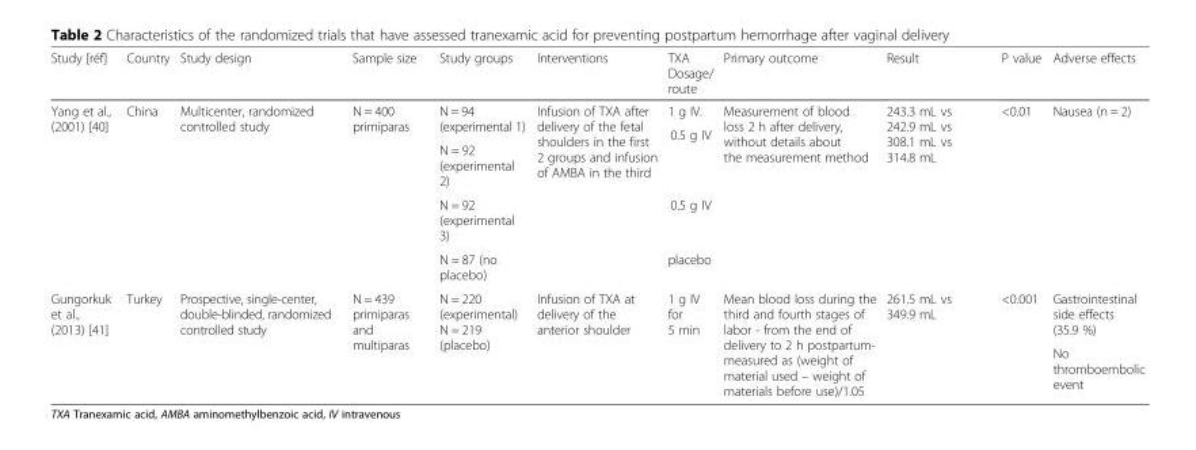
<table><thead><tr><td>Study [réf]</td><td>Country</td><td>Study design</td><td>Sample size</td><td>Study groups</td><td>Interventions</td><td>TXA Dosage/ route</td><td>Primary outcome</td><td>Result</td><td>P value</td><td>Adverse effects</td></tr></thead><tbody><tr><td rowspan="5">Yang et al., (2001) [40]</td><td rowspan="5">China</td><td rowspan="5">Multicenter, randomized controlled study</td><td rowspan="5">N = 400 primiparas</td><td rowspan="2">N = 94 (experimental 1)</td><td rowspan="5">Infusion of TXA after delivery of the fetal shoulders in the first 2 groups and infusion of AMBA in the third</td><td>1 g IV.</td><td rowspan="5">Measurement of blood loss 2 h after delivery, without details about the measurement method</td><td rowspan="5">243.3 mL vs 242.9 mL vs 308.1 mL vs 314.8 mL</td><td rowspan="5">&lt;0.01</td><td rowspan="5">Nausea (n = 2)</td></tr><tr><td rowspan="2">0.5 g IV</td></tr><tr><td>N = 92 (experimental 2)</td></tr><tr><td>N = 92 (experimental 3)</td><td>0.5 g IV</td></tr><tr><td>N = 87 (no placebo)</td><td>placebo</td></tr><tr><td rowspan="2">Gungorkuk et al., (2013) [41]</td><td rowspan="2">Turkey</td><td rowspan="2">Prospective, single-center, double-blinded, randomized controlled study</td><td rowspan="2">N = 439 primiparas and multiparas</td><td rowspan="2">N = 220 (experimental) N = 219 (placebo)</td><td rowspan="2">Infusion of TXA at delivery of the anterior shoulder</td><td rowspan="2">1 g IV for 5 min</td><td rowspan="2">Mean blood loss during the third and fourth stages of labor - from the end of delivery to 2 h postpartum- measured as (weight of material used – weight of materials before use)/1.05</td><td rowspan="2">261.5 mL vs 349.9 mL</td><td rowspan="2">&lt;0.001</td><td>Gastrointestinal side effects (35.9 %)</td></tr><tr><td>No thromboembolic event</td></tr></tbody></table>